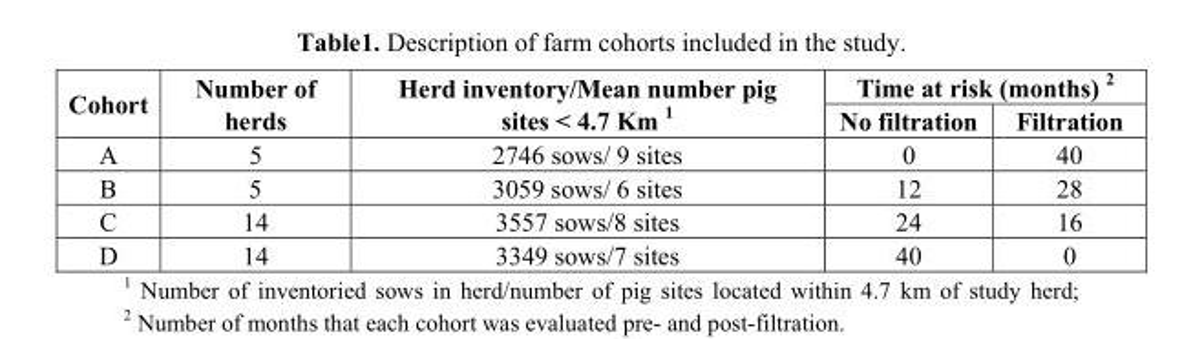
<table><thead><tr><td rowspan="2">Cohort</td><td rowspan="2">Number of herds</td><td rowspan="2">Herd inventory/Mean number pig sites &lt; 4.7 Km <sup>1</sup></td><td colspan="2">Time at risk (months) <sup>2</sup></td></tr><tr><td>No filtration</td><td>Filtration</td></tr></thead><tbody><tr><td>A</td><td>5</td><td>2746 sows/ 9 sites</td><td>0</td><td>40</td></tr><tr><td>B</td><td>5</td><td>3059 sows/ 6 sites</td><td>12</td><td>28</td></tr><tr><td>C</td><td>14</td><td>3557 sows/8 sites</td><td>24</td><td>16</td></tr><tr><td>D</td><td>14</td><td>3349 sows/7 sites</td><td>40</td><td>0</td></tr></tbody></table>